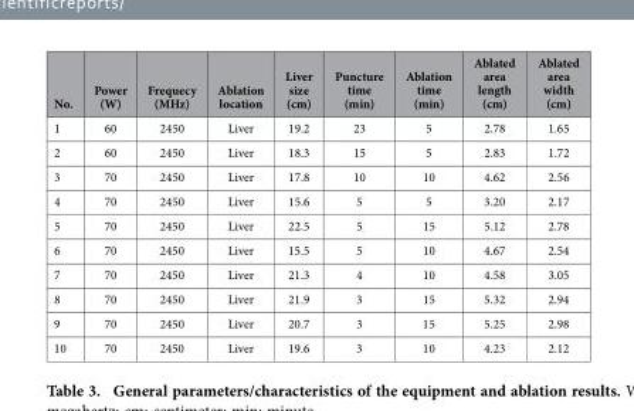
<table><thead><tr><td>No.</td><td>Power (W)</td><td>Frequecy (MHz)</td><td>Ablation location</td><td>Liver size (cm)</td><td>Puncture time (min)</td><td>Ablation time (min)</td><td>Ablated area length (cm)</td><td>Ablated area width (cm)</td></tr></thead><tbody><tr><td>1</td><td>60</td><td>2450</td><td>Liver</td><td>19.2</td><td>23</td><td>5</td><td>2.78</td><td>1.65</td></tr><tr><td>2</td><td>60</td><td>2450</td><td>Liver</td><td>18.3</td><td>15</td><td>5</td><td>2.83</td><td>1.72</td></tr><tr><td>3</td><td>70</td><td>2450</td><td>Liver</td><td>17.8</td><td>10</td><td>10</td><td>4.62</td><td>2.56</td></tr><tr><td>4</td><td>70</td><td>2450</td><td>Liver</td><td>15.6</td><td>5</td><td>5</td><td>3.20</td><td>2.17</td></tr><tr><td>5</td><td>70</td><td>2450</td><td>Liver</td><td>22.5</td><td>5</td><td>15</td><td>5.12</td><td>2.78</td></tr><tr><td>6</td><td>70</td><td>2450</td><td>Liver</td><td>15.5</td><td>5</td><td>10</td><td>4.67</td><td>2.54</td></tr><tr><td>7</td><td>70</td><td>2450</td><td>Liver</td><td>21.3</td><td>4</td><td>10</td><td>4.58</td><td>3.05</td></tr><tr><td>8</td><td>70</td><td>2450</td><td>Liver</td><td>21.9</td><td>3</td><td>15</td><td>5.32</td><td>2.94</td></tr><tr><td>9</td><td>70</td><td>2450</td><td>Liver</td><td>20.7</td><td>3</td><td>15</td><td>5.25</td><td>2.98</td></tr><tr><td>10</td><td>70</td><td>2450</td><td>Liver</td><td>19.6</td><td>3</td><td>10</td><td>4.23</td><td>2.12</td></tr></tbody></table>